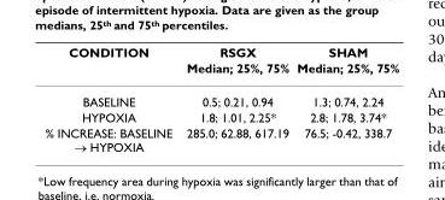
<table><thead><tr><td rowspan="2">CONDITION</td><td rowspan="2">RSGX Median; 25%, 75%</td><td rowspan="2">SHAM Median; 25%, 75%</td></tr><tr></tr></thead><tbody><tr><td>BASELINE</td><td>0.5; 0.21, 0.94</td><td>1.3; 0.74, 2.24</td></tr><tr><td>HYPOXIA</td><td>1.8; 1.01, 2.25*</td><td>2.8; 1.78, 3.74*</td></tr><tr><td>% INCREASE: BASELINE → HYPOXIA</td><td>285.0; 62.88, 617.19</td><td>76.5; -0.42, 338.7</td></tr></tbody></table>